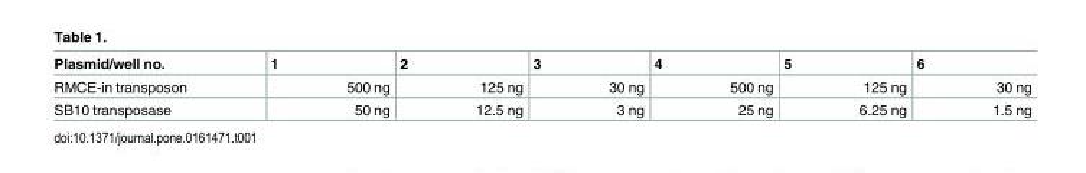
<table><thead><tr><td>Plasmid/well no.</td><td>1</td><td>2</td><td>3</td><td>4</td><td>5</td><td>6</td></tr></thead><tbody><tr><td>RMCE-in transposon</td><td>500 ng</td><td>125 ng</td><td>30 ng</td><td>500 ng</td><td>125 ng</td><td>30 ng</td></tr><tr><td>SB10 transposase</td><td>50 ng</td><td>12.5 ng</td><td>3 ng</td><td>25 ng</td><td>6.25 ng</td><td>1.5 ng</td></tr></tbody></table>